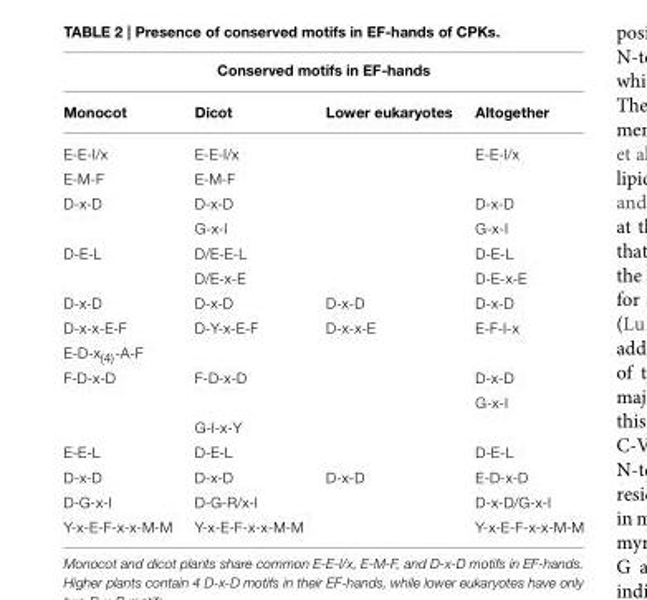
<table><thead><tr><td colspan="4">Conserved motifs in EF-hands</td></tr><tr><td>Monocot</td><td>Dicot</td><td>Lower eukaryotes</td><td>Altogether</td></tr></thead><tbody><tr><td>E-E-I/x</td><td>E-E-I/x</td><td></td><td>E-E-I/x</td></tr><tr><td>E-M-F</td><td>E-M-F</td><td></td><td></td></tr><tr><td rowspan="2">D-x-D</td><td>D-x-D</td><td></td><td>D-x-D</td></tr><tr><td>G-x-I</td><td></td><td>G-x-I</td></tr><tr><td rowspan="2">D-E-L</td><td>D/E-E-L</td><td></td><td>D-E-L</td></tr><tr><td>D/E-x-E</td><td></td><td>D-E-x-E</td></tr><tr><td>D-x-D</td><td>D-x-D</td><td>D-x-D</td><td>D-x-D</td></tr><tr><td>D-x-x-E-F</td><td>D-Y-x-E-F</td><td>D-x-x-E</td><td>E-F-I-x</td></tr><tr><td colspan="4">E-D-x<sub>(4)</sub>-A-F</td></tr><tr><td rowspan="3">F-D-x-D</td><td>F-D-x-D</td><td></td><td>D-x-D</td></tr><tr><td></td><td></td><td>G-x-I</td></tr><tr><td>G-I-x-Y</td><td></td><td></td></tr><tr><td>E-E-L</td><td>D-E-L</td><td></td><td>D-E-L</td></tr><tr><td>D-x-D</td><td>D-x-D</td><td>D-x-D</td><td>E-D-x-D</td></tr><tr><td>D-G-x-I</td><td>D-G-R/x-I</td><td></td><td>D-x-D/G-x-I</td></tr><tr><td>Y-x-E-F-x-x-M-M</td><td>Y-x-E-F-x-x-M-M</td><td></td><td>Y-x-E-F-x-x-M-M</td></tr></tbody></table>